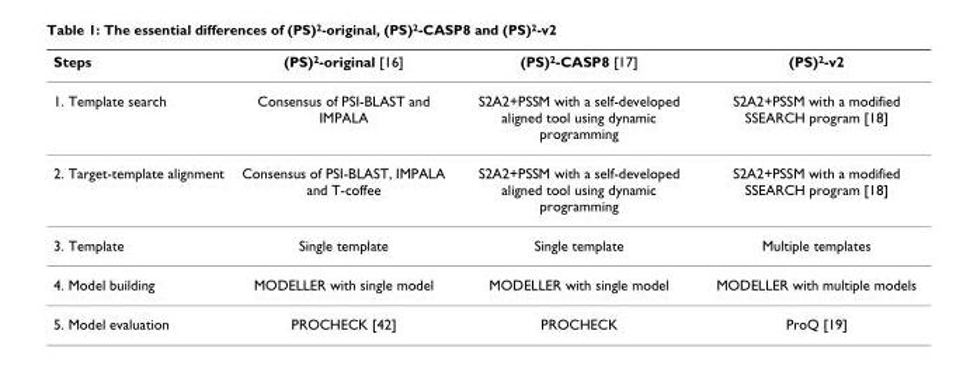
<table><thead><tr><td>Steps</td><td>(PS)<sup>2</sup>-original [16]</td><td>(PS)<sup>2</sup>-CASP8 [17]</td><td>(PS)<sup>2</sup>-v2</td></tr></thead><tbody><tr><td>1. Template search</td><td>Consensus of PSI-BLAST and IMPALA</td><td>S2A2+PSSM with a self-developed aligned tool using dynamic programming</td><td>S2A2+PSSM with a modified SSEARCH program [18]</td></tr><tr><td>2. Target-template alignment</td><td>Consensus of PSI-BLAST, IMPALA and T-coffee</td><td>S2A2+PSSM with a self-developed aligned tool using dynamic programming</td><td>S2A2+PSSM with a modified SSEARCH program [18]</td></tr><tr><td>3. Template</td><td>Single template</td><td>Single template</td><td>Multiple templates</td></tr><tr><td>4. Model building</td><td>MODELLER with single model</td><td>MODELLER with single model</td><td>MODELLER with multiple models</td></tr><tr><td>5. Model evaluation</td><td>PROCHECK [42]</td><td>PROCHECK</td><td>ProQ [19]</td></tr></tbody></table>